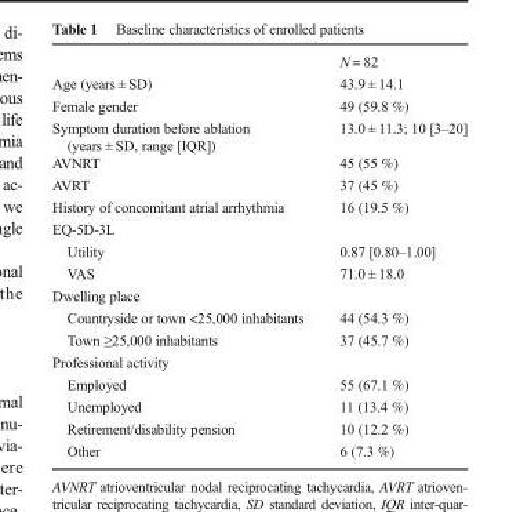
<table><thead><tr><td></td><td>N = 82</td></tr></thead><tbody><tr><td>Age (years ± SD)</td><td>43.9 ± 14.1</td></tr><tr><td>Female gender</td><td>49 (59.8 %)</td></tr><tr><td>Symptom duration before ablation (years ± SD, range [IQR])</td><td>13.0 ± 11.3; 10 [3–20]</td></tr><tr><td>AVNRT</td><td>45 (55 %)</td></tr><tr><td>AVRT</td><td>37 (45 %)</td></tr><tr><td>History of concomitant atrial arrhythmia</td><td>16 (19.5 %)</td></tr><tr><td colspan="2">EQ-5D-3L</td></tr><tr><td>Utility</td><td>0.87 [0.80–1.00]</td></tr><tr><td>VAS</td><td>71.0 ± 18.0</td></tr><tr><td colspan="2">Dwelling place</td></tr><tr><td>Countryside or town &lt;25,000 inhabitants</td><td>44 (54.3 %)</td></tr><tr><td>Town ≥25,000 inhabitants</td><td>37 (45.7 %)</td></tr><tr><td colspan="2">Professional activity</td></tr><tr><td>Employed</td><td>55 (67.1 %)</td></tr><tr><td>Unemployed</td><td>11 (13.4 %)</td></tr><tr><td>Retirement/disability pension</td><td>10 (12.2 %)</td></tr><tr><td>Other</td><td>6 (7.3 %)</td></tr></tbody></table>